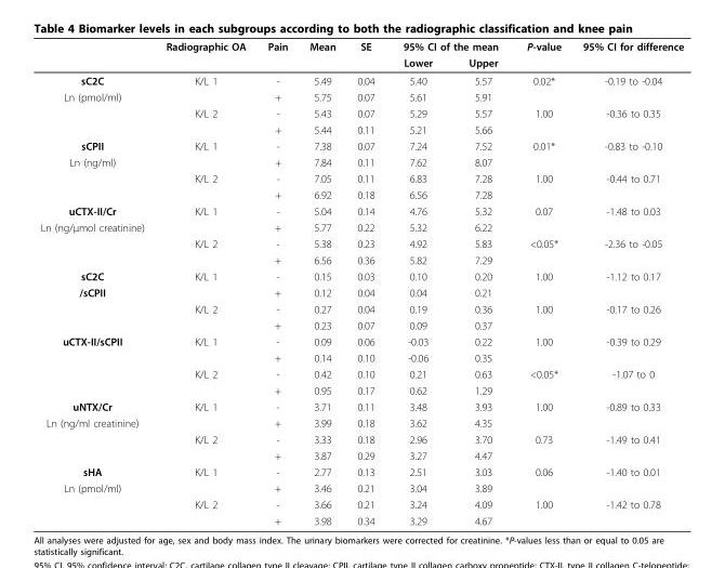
<table><thead><tr><td rowspan="2"></td><td rowspan="2">Radiographic OA</td><td rowspan="2">Pain</td><td rowspan="2">Mean</td><td rowspan="2">SE</td><td colspan="2">95% CI of the mean</td><td rowspan="2">P-value</td><td rowspan="2">95% CI for difference</td></tr><tr><td>Lower</td><td>Upper</td></tr></thead><tbody><tr><td>sC2C</td><td>K/L 1</td><td>-</td><td>5.49</td><td>0.04</td><td>5.40</td><td>5.57</td><td>0.02*</td><td>-0.19 to -0.04</td></tr><tr><td rowspan="3">Ln (pmol/ml)</td><td></td><td>+</td><td>5.75</td><td>0.07</td><td>5.61</td><td>5.91</td><td></td><td></td></tr><tr><td>K/L 2</td><td>-</td><td>5.43</td><td>0.07</td><td>5.29</td><td>5.57</td><td>1.00</td><td>-0.36 to 0.35</td></tr><tr><td></td><td>+</td><td>5.44</td><td>0.11</td><td>5.21</td><td>5.66</td><td></td><td></td></tr><tr><td>sCPII</td><td>K/L 1</td><td>-</td><td>7.38</td><td>0.07</td><td>7.24</td><td>7.52</td><td>0.01*</td><td>-0.83 to -0.10</td></tr><tr><td rowspan="3">Ln (ng/ml)</td><td></td><td>+</td><td>7.84</td><td>0.11</td><td>7.62</td><td>8.07</td><td></td><td></td></tr><tr><td>K/L 2</td><td>-</td><td>7.05</td><td>0.11</td><td>6.83</td><td>7.28</td><td>1.00</td><td>-0.44 to 0.71</td></tr><tr><td></td><td>+</td><td>6.92</td><td>0.18</td><td>6.56</td><td>7.28</td><td></td><td></td></tr><tr><td>uCTX-II/Cr</td><td>K/L 1</td><td>-</td><td>5.04</td><td>0.14</td><td>4.76</td><td>5.32</td><td>0.07</td><td>-1.48 to 0.03</td></tr><tr><td rowspan="3">Ln (ng/μmol creatinine)</td><td></td><td>+</td><td>5.77</td><td>0.22</td><td>5.32</td><td>6.22</td><td></td><td></td></tr><tr><td>K/L 2</td><td>-</td><td>5.38</td><td>0.23</td><td>4.92</td><td>5.83</td><td>&lt;0.05*</td><td>-2.36 to -0.05</td></tr><tr><td></td><td>+</td><td>6.56</td><td>0.36</td><td>5.82</td><td>7.29</td><td></td><td></td></tr><tr><td>sC2C</td><td>K/L 1</td><td>-</td><td>0.15</td><td>0.03</td><td>0.10</td><td>0.20</td><td>1.00</td><td>-1.12 to 0.17</td></tr><tr><td rowspan="3">/sCPII</td><td></td><td>+</td><td>0.12</td><td>0.04</td><td>0.04</td><td>0.21</td><td></td><td></td></tr><tr><td>K/L 2</td><td>-</td><td>0.27</td><td>0.04</td><td>0.19</td><td>0.36</td><td>1.00</td><td>-0.17 to 0.26</td></tr><tr><td></td><td>+</td><td>0.23</td><td>0.07</td><td>0.09</td><td>0.37</td><td></td><td></td></tr><tr><td rowspan="4">uCTX-II/sCPII</td><td>K/L 1</td><td>-</td><td>0.09</td><td>0.06</td><td>-0.03</td><td>0.22</td><td>1.00</td><td>-0.39 to 0.29</td></tr><tr><td></td><td>+</td><td>0.14</td><td>0.10</td><td>-0.06</td><td>0.35</td><td></td><td></td></tr><tr><td>K/L 2</td><td>-</td><td>0.42</td><td>0.10</td><td>0.21</td><td>0.63</td><td>&lt;0.05*</td><td>-1.07 to 0</td></tr><tr><td></td><td>+</td><td>0.95</td><td>0.17</td><td>0.62</td><td>1.29</td><td></td><td></td></tr><tr><td>uNTX/Cr</td><td>K/L 1</td><td>-</td><td>3.71</td><td>0.11</td><td>3.48</td><td>3.93</td><td>1.00</td><td>-0.89 to 0.33</td></tr><tr><td rowspan="3">Ln (ng/ml creatinine)</td><td></td><td>+</td><td>3.99</td><td>0.18</td><td>3.62</td><td>4.35</td><td></td><td></td></tr><tr><td>K/L 2</td><td>-</td><td>3.33</td><td>0.18</td><td>2.96</td><td>3.70</td><td>0.73</td><td>-1.49 to 0.41</td></tr><tr><td></td><td>+</td><td>3.87</td><td>0.29</td><td>3.27</td><td>4.47</td><td></td><td></td></tr><tr><td>sHA</td><td>K/L 1</td><td>-</td><td>2.77</td><td>0.13</td><td>2.51</td><td>3.03</td><td>0.06</td><td>-1.40 to 0.01</td></tr><tr><td rowspan="3">Ln (pmol/ml)</td><td></td><td>+</td><td>3.46</td><td>0.21</td><td>3.04</td><td>3.89</td><td></td><td></td></tr><tr><td>K/L 2</td><td>-</td><td>3.66</td><td>0.21</td><td>3.24</td><td>4.09</td><td>1.00</td><td>-1.42 to 0.78</td></tr><tr><td></td><td>+</td><td>3.98</td><td>0.34</td><td>3.29</td><td>4.67</td><td></td><td></td></tr></tbody></table>